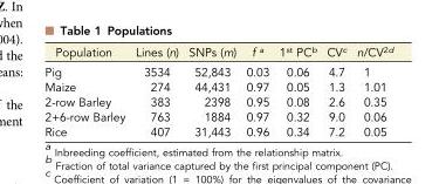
<table><thead><tr><td>Population</td><td>Lines (n)</td><td>SNPs (m)</td><td>f <sup>a</sup></td><td>1<sup>st</sup> PC<sup>b</sup></td><td>CV<sup>c</sup></td><td>n/CV<sup>2d</sup></td></tr></thead><tbody><tr><td>Pig</td><td>3534</td><td>52,843</td><td>0.03</td><td>0.06</td><td>4.7</td><td>1</td></tr><tr><td>Maize</td><td>274</td><td>44,431</td><td>0.97</td><td>0.05</td><td>1.3</td><td>1.01</td></tr><tr><td>2-row Barley</td><td>383</td><td>2398</td><td>0.95</td><td>0.08</td><td>2.6</td><td>0.35</td></tr><tr><td>2+6-row Barley</td><td>763</td><td>1884</td><td>0.97</td><td>0.32</td><td>9.0</td><td>0.06</td></tr><tr><td>Rice</td><td>407</td><td>31,443</td><td>0.96</td><td>0.34</td><td>7.2</td><td>0.05</td></tr></tbody></table>